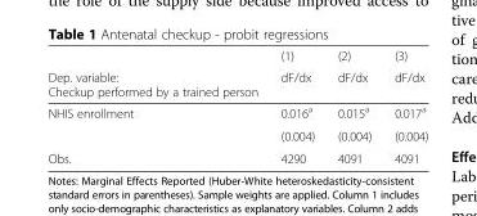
<table><thead><tr><td rowspan="2">Dep. variable: Checkup performed by a trained person</td><td rowspan="2">(1) dF/dx</td><td rowspan="2">(2) dF/dx</td><td rowspan="2">(3) dF/dx</td></tr><tr></tr></thead><tbody><tr><td rowspan="2">NHIS enrollment</td><td>0.016<sup>a</sup></td><td>0.015<sup>a</sup></td><td>0.017<sup>a</sup></td></tr><tr><td>(0.004)</td><td>(0.004)</td><td>(0.004)</td></tr><tr><td>Obs.</td><td>4290</td><td>4091</td><td>4091</td></tr></tbody></table>